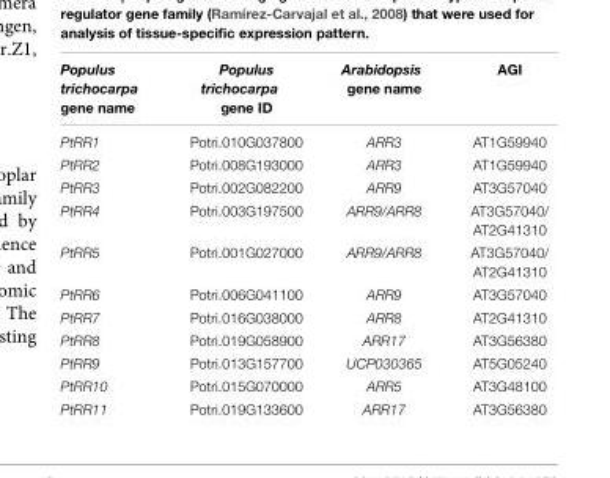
<table><thead><tr><td>Populus trichocarpa gene name</td><td>Populus trichocarpa gene ID</td><td>Arabidopsis gene name</td><td>AGI</td></tr></thead><tbody><tr><td>PtRR1</td><td>Potri.010G037800</td><td>ARR3</td><td>AT1G59940</td></tr><tr><td>PtRR2</td><td>Potri.008G193000</td><td>ARR3</td><td>AT1G59940</td></tr><tr><td>PtRR3</td><td>Potri.002G082200</td><td>ARR9</td><td>AT3G57040</td></tr><tr><td>PtRR4</td><td>Potri.003G197500</td><td>ARR9/ARR8</td><td>AT3G57040/ AT2G41310</td></tr><tr><td>PtRR5</td><td>Potri.001G027000</td><td>ARR9/ARR8</td><td>AT3G57040/ AT2G41310</td></tr><tr><td>PtRR6</td><td>Potri.006G041100</td><td>ARR9</td><td>AT3G57040</td></tr><tr><td>PtRR7</td><td>Potri.016G038000</td><td>ARR8</td><td>AT2G41310</td></tr><tr><td>PtRR8</td><td>Potri.019G058900</td><td>ARR17</td><td>AT3G56380</td></tr><tr><td>PtRR9</td><td>Potri.013G157700</td><td>UCP030365</td><td>AT5G05240</td></tr><tr><td>PtRR10</td><td>Potri.015G070000</td><td>ARR5</td><td>AT3G48100</td></tr><tr><td>PtRR11</td><td>Potri.019G133600</td><td>ARR17</td><td>AT3G56380</td></tr></tbody></table>